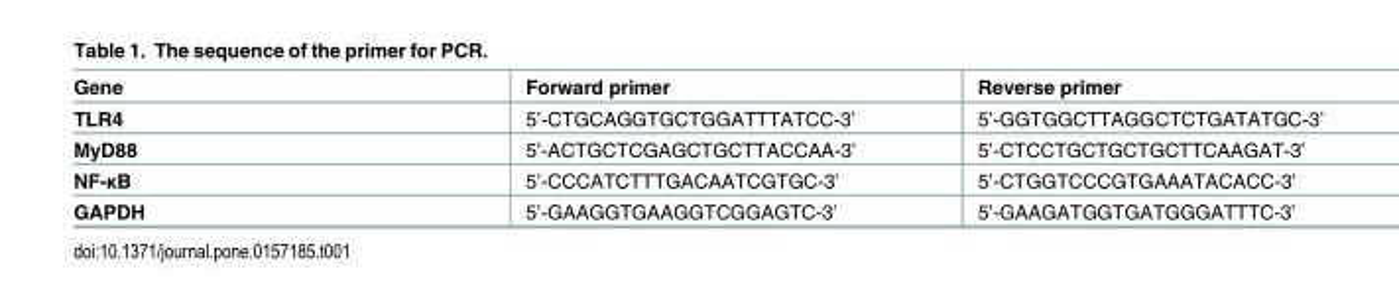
<table><thead><tr><td>Gene</td><td>Forward primer</td><td>Reverse primer</td></tr></thead><tbody><tr><td>TLR4</td><td>5’-CTGCAGGTGCTGGATTTATCC-3’</td><td>5’-GGTGGCTTAGGCTCTGATATGC-3’</td></tr><tr><td>MyD88</td><td>5’-ACTGCTCGAGCTGCTTACCAA-3’</td><td>5’-CTCCTGCTGCTGCTTCAAGAT-3’</td></tr><tr><td>NF-κB</td><td>5’-CCCATCTTTGACAATCGTGC-3’</td><td>5’-CTGGTCCCGTGAAATACACC-3’</td></tr><tr><td>GAPDH</td><td>5’-GAAGGTGAAGGTCGGAGTC-3’</td><td>5’-GAAGATGGTGATGGGATTTC-3’</td></tr></tbody></table>